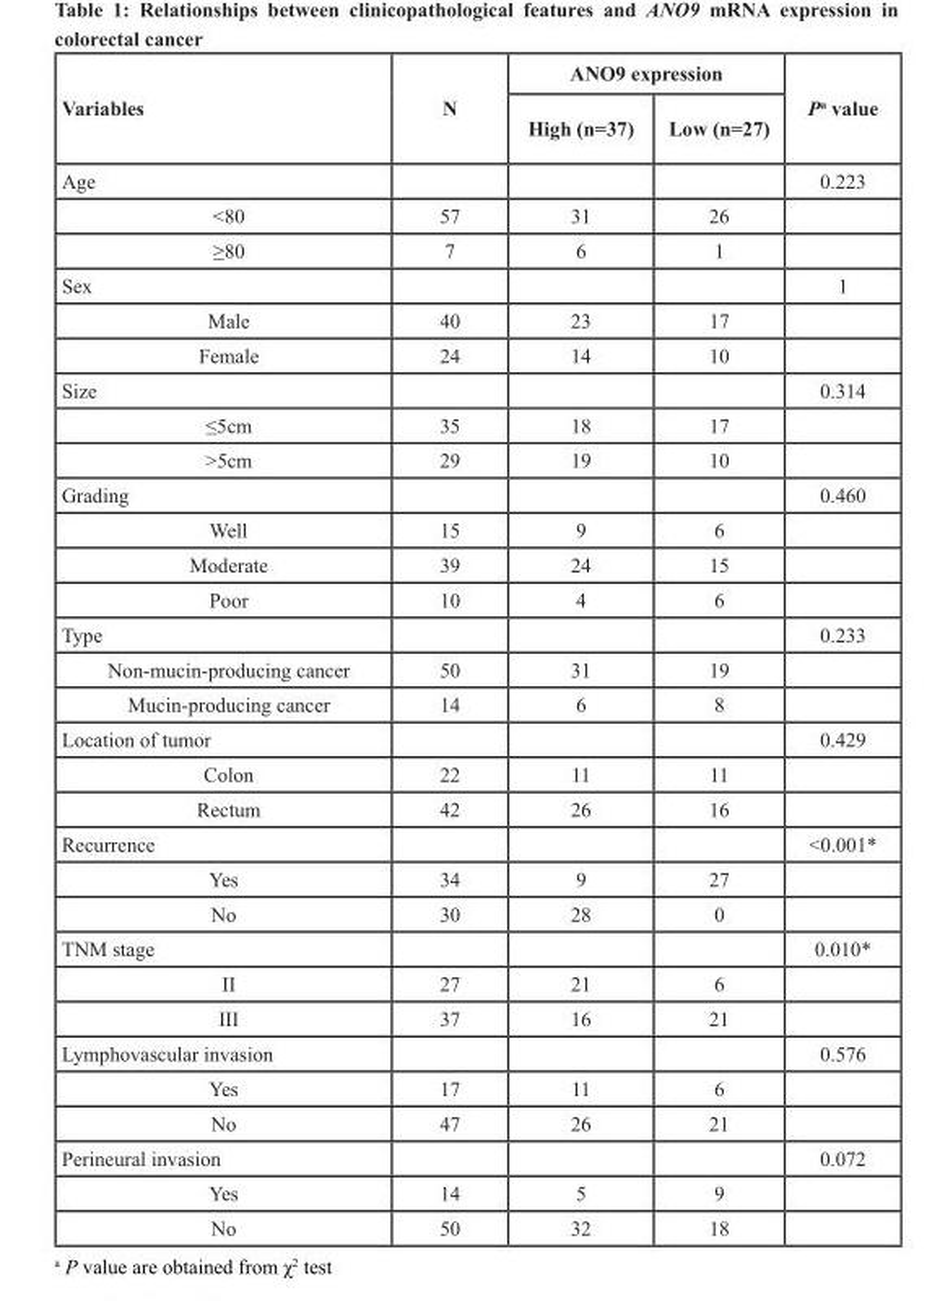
<table><thead><tr><td rowspan="2">Variables</td><td rowspan="2">N</td><td colspan="2">ANO9 expression</td><td rowspan="2">P<sup>a</sup> value</td></tr><tr><td>High (n=37)</td><td>Low (n=27)</td></tr></thead><tbody><tr><td>Age</td><td></td><td></td><td></td><td>0.223</td></tr><tr><td>&lt;80</td><td>57</td><td>31</td><td>26</td><td></td></tr><tr><td>≥80</td><td>7</td><td>6</td><td>1</td><td></td></tr><tr><td>Sex</td><td></td><td></td><td></td><td>1</td></tr><tr><td>Male</td><td>40</td><td>23</td><td>17</td><td></td></tr><tr><td>Female</td><td>24</td><td>14</td><td>10</td><td></td></tr><tr><td>Size</td><td></td><td></td><td></td><td>0.314</td></tr><tr><td>≤5cm</td><td>35</td><td>18</td><td>17</td><td></td></tr><tr><td>&gt;5cm</td><td>29</td><td>19</td><td>10</td><td></td></tr><tr><td>Grading</td><td></td><td></td><td></td><td>0.460</td></tr><tr><td>Well</td><td>15</td><td>9</td><td>6</td><td></td></tr><tr><td>Moderate</td><td>39</td><td>24</td><td>15</td><td></td></tr><tr><td>Poor</td><td>10</td><td>4</td><td>6</td><td></td></tr><tr><td>Type</td><td></td><td></td><td></td><td>0.233</td></tr><tr><td>Non-mucin-producing cancer</td><td>50</td><td>31</td><td>19</td><td></td></tr><tr><td>Mucin-producing cancer</td><td>14</td><td>6</td><td>8</td><td></td></tr><tr><td>Location of tumor</td><td></td><td></td><td></td><td>0.429</td></tr><tr><td>Colon</td><td>22</td><td>11</td><td>11</td><td></td></tr><tr><td>Rectum</td><td>42</td><td>26</td><td>16</td><td></td></tr><tr><td>Recurrence</td><td></td><td></td><td></td><td>&lt;0.001*</td></tr><tr><td>Yes</td><td>34</td><td>9</td><td>27</td><td></td></tr><tr><td>No</td><td>30</td><td>28</td><td>0</td><td></td></tr><tr><td>TNM stage</td><td></td><td></td><td></td><td>0.010*</td></tr><tr><td>II</td><td>27</td><td>21</td><td>6</td><td></td></tr><tr><td>III</td><td>37</td><td>16</td><td>21</td><td></td></tr><tr><td>Lymphovascular invasion</td><td></td><td></td><td></td><td>0.576</td></tr><tr><td>Yes</td><td>17</td><td>11</td><td>6</td><td></td></tr><tr><td>No</td><td>47</td><td>26</td><td>21</td><td></td></tr><tr><td>Perineural invasion</td><td></td><td></td><td></td><td>0.072</td></tr><tr><td>Yes</td><td>14</td><td>5</td><td>9</td><td></td></tr><tr><td>No</td><td>50</td><td>32</td><td>18</td><td></td></tr></tbody></table>